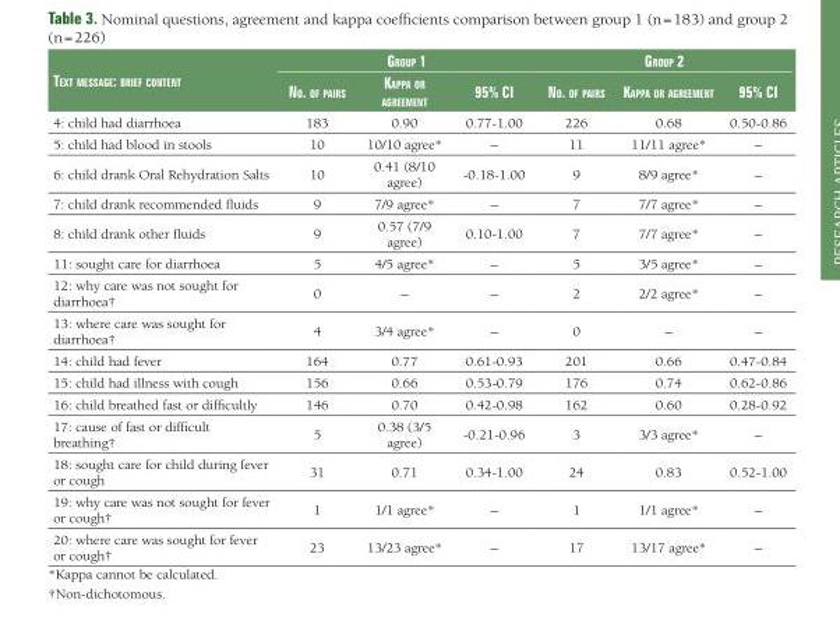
<table><thead><tr><td rowspan="2">TexT messaGe: brief CoNTeNT</td><td colspan="3">Group 1</td><td colspan="3">Group 2</td></tr><tr><td>No. of pairs</td><td>Kappa or aGreemeNT</td><td>95% Ci</td><td>No. of pairs</td><td>Kappa or aGreemeNT</td><td>95% Ci</td></tr></thead><tbody><tr><td>4: child had diarrhoea</td><td>183</td><td>0.90</td><td>0.77-1.00</td><td>226</td><td>0.68</td><td>0.50-0.86</td></tr><tr><td>5: child had blood in stools</td><td>10</td><td>10/10 agree*</td><td>–</td><td>11</td><td>11/11 agree*</td><td>–</td></tr><tr><td>6: child drank Oral Rehydration Salts</td><td>10</td><td>0.41 (8/10 agree)</td><td>-0.18-1.00</td><td>9</td><td>8/9 agree*</td><td>–</td></tr><tr><td>7: child drank recommended fluids</td><td>9</td><td>7/9 agree*</td><td>–</td><td>7</td><td>7/7 agree*</td><td>–</td></tr><tr><td>8: child drank other fluids</td><td>9</td><td>0.57 (7/9 agree)</td><td>0.10-1.00</td><td>7</td><td>7/7 agree*</td><td>–</td></tr><tr><td>11: sought care for diarrhoea</td><td>5</td><td>4/5 agree*</td><td>–</td><td>5</td><td>3/5 agree*</td><td>–</td></tr><tr><td>12: why care was not sought for diarrhoea†</td><td>0</td><td>–</td><td>–</td><td>2</td><td>2/2 agree*</td><td>–</td></tr><tr><td>13: where care was sought for diarrhoea†</td><td>4</td><td>3/4 agree*</td><td>–</td><td>0</td><td>–</td><td>–</td></tr><tr><td>14: child had fever</td><td>164</td><td>0.77</td><td>0.61-0.93</td><td>201</td><td>0.66</td><td>0.47-0.84</td></tr><tr><td>15: child had illness with cough</td><td>156</td><td>0.66</td><td>0.53-0.79</td><td>176</td><td>0.74</td><td>0.62-0.86</td></tr><tr><td>16: child breathed fast or difficultly</td><td>146</td><td>0.70</td><td>0.42-0.98</td><td>162</td><td>0.60</td><td>0.28-0.92</td></tr><tr><td>17: cause of fast or difficult breathing†</td><td>5</td><td>0.38 (3/5 agree)</td><td>-0.21-0.96</td><td>3</td><td>3/3 agree*</td><td>–</td></tr><tr><td>18: sought care for child during fever or cough</td><td>31</td><td>0.71</td><td>0.34-1.00</td><td>24</td><td>0.83</td><td>0.52-1.00</td></tr><tr><td>19: why care was not sought for fever or cough†</td><td>1</td><td>1/1 agree*</td><td>–</td><td>1</td><td>1/1 agree*</td><td>–</td></tr><tr><td>20: where care was sought for fever or cough†</td><td>23</td><td>13/23 agree*</td><td>–</td><td>17</td><td>13/17 agree*</td><td>–</td></tr></tbody></table>